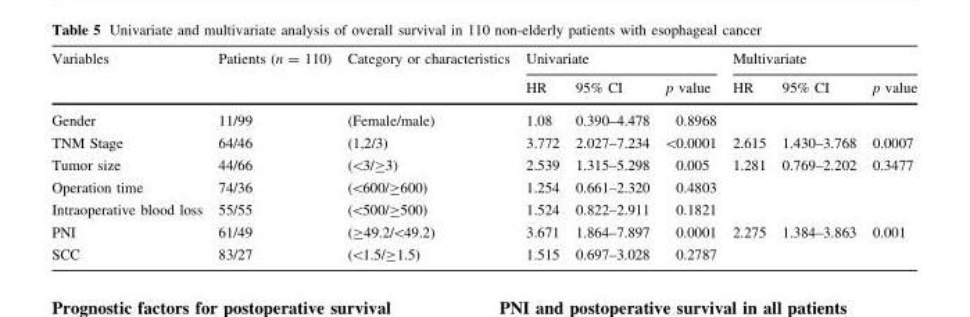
<table><thead><tr><td rowspan="2">Variables</td><td rowspan="2">Patients (n = 110)</td><td rowspan="2">Category or characteristics</td><td colspan="3">Univariate</td><td colspan="3">Multivariate</td></tr><tr><td>HR</td><td>95% CI</td><td>p value</td><td>HR</td><td>95% CI</td><td>p value</td></tr></thead><tbody><tr><td>Gender</td><td>11/99</td><td>(Female/male)</td><td>1.08</td><td>0.390–4.478</td><td>0.8968</td><td></td><td></td><td></td></tr><tr><td>TNM Stage</td><td>64/46</td><td>(1,2/3)</td><td>3.772</td><td>2.027–7.234</td><td>&lt;0.0001</td><td>2.615</td><td>1.430–3.768</td><td>0.0007</td></tr><tr><td>Tumor size</td><td>44/66</td><td>(&lt;3/≥3)</td><td>2.539</td><td>1.315–5.298</td><td>0.005</td><td>1.281</td><td>0.769–2.202</td><td>0.3477</td></tr><tr><td>Operation time</td><td>74/36</td><td>(&lt;600/≥600)</td><td>1.254</td><td>0.661–2.320</td><td>0.4803</td><td></td><td></td><td></td></tr><tr><td>Intraoperative blood loss</td><td>55/55</td><td>(&lt;500/≥500)</td><td>1.524</td><td>0.822–2.911</td><td>0.1821</td><td></td><td></td><td></td></tr><tr><td>PNI</td><td>61/49</td><td>(≥49.2/&lt;49.2)</td><td>3.671</td><td>1.864–7.897</td><td>0.0001</td><td>2.275</td><td>1.384–3.863</td><td>0.001</td></tr><tr><td>SCC</td><td>83/27</td><td>(&lt;1.5/≥1.5)</td><td>1.515</td><td>0.697–3.028</td><td>0.2787</td><td></td><td></td><td></td></tr></tbody></table>